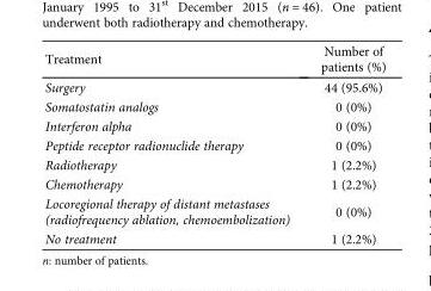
<table><thead><tr><td>Treatment</td><td>Number of patients (%)</td></tr></thead><tbody><tr><td>Surgery</td><td>44 (95.6%)</td></tr><tr><td>Somatostatin analogs</td><td>0 (0%)</td></tr><tr><td>Interferon alpha</td><td>0 (0%)</td></tr><tr><td>Peptide receptor radionuclide therapy</td><td>0 (0%)</td></tr><tr><td>Radiotherapy</td><td>1 (2.2%)</td></tr><tr><td>Chemotherapy</td><td>1 (2.2%)</td></tr><tr><td>Locoregional therapy of distant metastases (radiofrequency ablation, chemoembolization)</td><td>0 (0%)</td></tr><tr><td>No treatment</td><td>1 (2.2%)</td></tr></tbody></table>